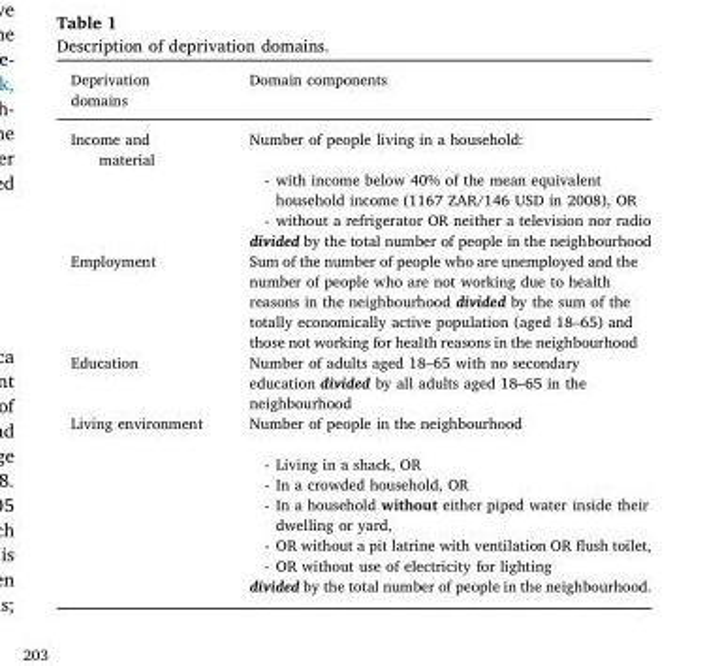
<table><thead><tr><td>Deprivation domains</td><td>Domain components</td></tr></thead><tbody><tr><td>Income and material</td><td>Number of people living in a household: - with income below 40% of the mean equivalent household income (1167 ZAR/146 USD in 2008), OR - without a refrigerator OR neither a television nor radio divided by the total number of people in the neighbourhood</td></tr><tr><td>Employment</td><td>Sum of the number of people who are unemployed and the number of people who are not working due to health reasons in the neighbourhood divided by the sum of the totally economically active population (aged 18–65) and those not working for health reasons in the neighbourhood</td></tr><tr><td>Education</td><td>Number of adults aged 18–65 with no secondary education divided by all adults aged 18–65 in the neighbourhood</td></tr><tr><td>Living environment</td><td>Number of people in the neighbourhood - Living in a shack, OR - In a crowded household, OR - In a household without either piped water inside their dwelling or yard, - OR without a pit latrine with ventilation OR flush toilet, - OR without use of electricity for lighting divided by the total number of people in the neighbourhood.</td></tr></tbody></table>